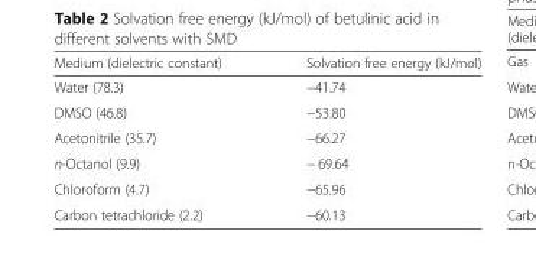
<table><thead><tr><td>Medium (dielectric constant)</td><td>Solvation free energy (kJ/mol)</td></tr></thead><tbody><tr><td>Water (78.3)</td><td>−41.74</td></tr><tr><td>DMSO (46.8)</td><td>−53.80</td></tr><tr><td>Acetonitrile (35.7)</td><td>−66.27</td></tr><tr><td>n-Octanol (9.9)</td><td>− 69.64</td></tr><tr><td>Chloroform (4.7)</td><td>−65.96</td></tr><tr><td>Carbon tetrachloride (2.2)</td><td>−60.13</td></tr></tbody></table>